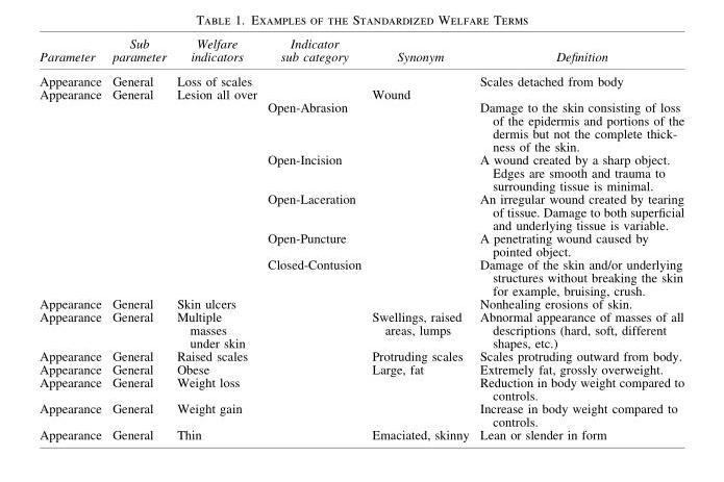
<table><thead><tr><td>Parameter</td><td>Sub parameter</td><td>Welfare indicators</td><td>Indicator sub category</td><td>Synonym</td><td>Definition</td></tr></thead><tbody><tr><td>Appearance</td><td>General</td><td>Loss of scales</td><td></td><td></td><td>Scales detached from body</td></tr><tr><td rowspan="6">Appearance</td><td>General</td><td>Lesion all over</td><td></td><td>Wound</td><td></td></tr><tr><td></td><td></td><td>Open-Abrasion</td><td></td><td>Damage to the skin consisting of loss of the epidermis and portions of the dermis but not the complete thick- ness of the skin.</td></tr><tr><td></td><td></td><td>Open-Incision</td><td></td><td>A wound created by a sharp object. Edges are smooth and trauma to surrounding tissue is minimal.</td></tr><tr><td></td><td></td><td>Open-Laceration</td><td></td><td>An irregular wound created by tearing of tissue. Damage to both superficial and underlying tissue is variable.</td></tr><tr><td></td><td></td><td>Open-Puncture</td><td></td><td>A penetrating wound caused by pointed object.</td></tr><tr><td></td><td></td><td>Closed-Contusion</td><td></td><td>Damage of the skin and/or underlying structures without breaking the skin for example, bruising, crush.</td></tr><tr><td>Appearance</td><td>General</td><td>Skin ulcers</td><td></td><td></td><td>Nonhealing erosions of skin.</td></tr><tr><td>Appearance</td><td>General</td><td>Multiple masses under skin</td><td></td><td>Swellings, raised areas, lumps</td><td>Abnormal appearance of masses of all descriptions (hard, soft, different shapes, etc.)</td></tr><tr><td>Appearance</td><td>General</td><td>Raised scales</td><td></td><td>Protruding scales</td><td>Scales protruding outward from body.</td></tr><tr><td>Appearance</td><td>General</td><td>Obese</td><td></td><td>Large, fat</td><td>Extremely fat, grossly overweight.</td></tr><tr><td>Appearance</td><td>General</td><td>Weight loss</td><td></td><td></td><td>Reduction in body weight compared to controls.</td></tr><tr><td>Appearance</td><td>General</td><td>Weight gain</td><td></td><td></td><td>Increase in body weight compared to controls.</td></tr><tr><td>Appearance</td><td>General</td><td>Thin</td><td></td><td>Emaciated, skinny</td><td>Lean or slender in form</td></tr></tbody></table>